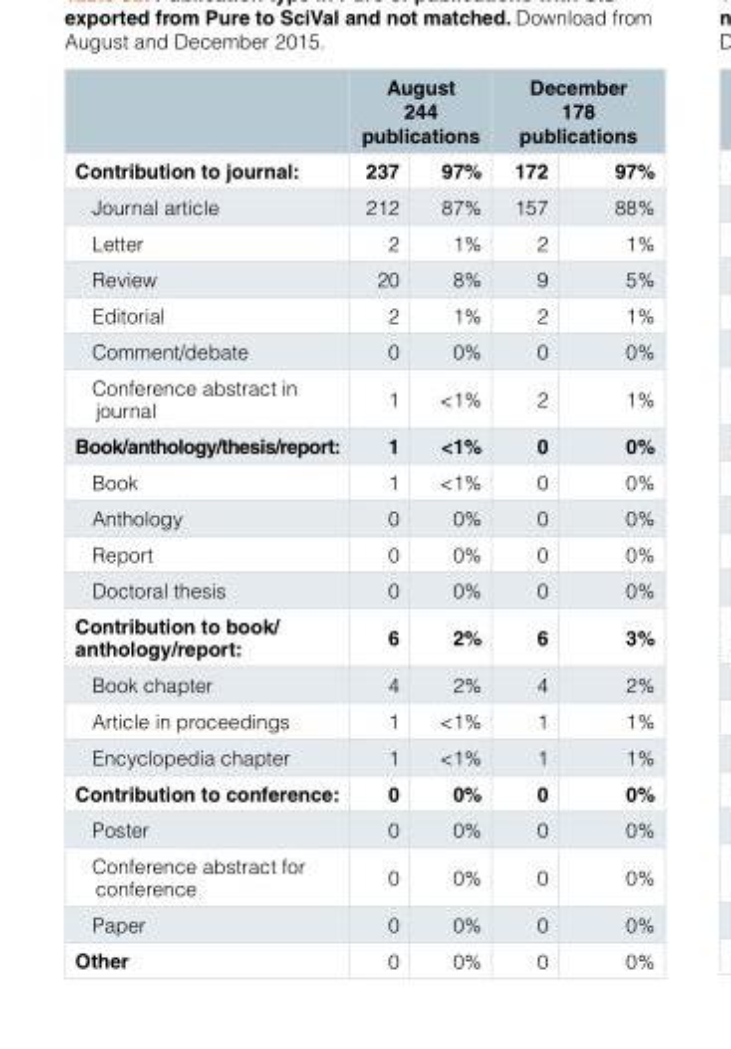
<table><thead><tr><td rowspan="2">Contribution to journal:</td><td colspan="2">August 244 publications</td><td colspan="2">December 178 publications</td></tr><tr><td>237</td><td>97%</td><td>172</td><td>97%</td></tr></thead><tbody><tr><td>Journal article</td><td>212</td><td>87%</td><td>157</td><td>88%</td></tr><tr><td>Letter</td><td>2</td><td>1%</td><td>2</td><td>1%</td></tr><tr><td>Review</td><td>20</td><td>8%</td><td>9</td><td>5%</td></tr><tr><td>Editorial</td><td>2</td><td>1%</td><td>2</td><td>1%</td></tr><tr><td>Comment/debate</td><td>0</td><td>0%</td><td>0</td><td>0%</td></tr><tr><td>Conference abstract in journal</td><td>1</td><td>&lt;1%</td><td>2</td><td>1%</td></tr><tr><td>Book/anthology/thesis/report:</td><td>1</td><td>&lt;1%</td><td>0</td><td>0%</td></tr><tr><td>Book</td><td>1</td><td>&lt;1%</td><td>0</td><td>0%</td></tr><tr><td>Anthology</td><td>0</td><td>0%</td><td>0</td><td>0%</td></tr><tr><td>Report</td><td>0</td><td>0%</td><td>0</td><td>0%</td></tr><tr><td>Doctoral thesis</td><td>0</td><td>0%</td><td>0</td><td>0%</td></tr><tr><td>Contribution to book/ anthology/report:</td><td>6</td><td>2%</td><td>6</td><td>3%</td></tr><tr><td>Book chapter</td><td>4</td><td>2%</td><td>4</td><td>2%</td></tr><tr><td>Article in proceedings</td><td>1</td><td>&lt;1%</td><td>1</td><td>1%</td></tr><tr><td>Encyclopedia chapter</td><td>1</td><td>&lt;1%</td><td>1</td><td>1%</td></tr><tr><td>Contribution to conference:</td><td>0</td><td>0%</td><td>0</td><td>0%</td></tr><tr><td>Poster</td><td>0</td><td>0%</td><td>0</td><td>0%</td></tr><tr><td>Conference abstract for conference</td><td>0</td><td>0%</td><td>0</td><td>0%</td></tr><tr><td>Paper</td><td>0</td><td>0%</td><td>0</td><td>0%</td></tr><tr><td>Other</td><td>0</td><td>0%</td><td>0</td><td>0%</td></tr></tbody></table>